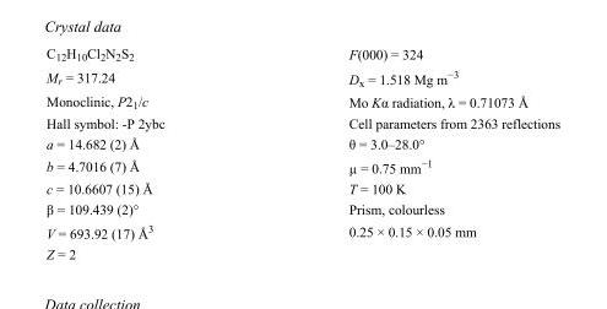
<table><tbody><tr><td>C<sub>12</sub>H<sub>10</sub>Cl<sub>2</sub>N<sub>2</sub>S<sub>2</sub></td><td>F(000) = 324</td></tr><tr><td>M<sub>r</sub> = 317.24</td><td>D<sub>x</sub> = 1.518 Mg m<sup>−3</sup></td></tr><tr><td>Monoclinic, P2<sub>1</sub>/c</td><td>Mo Kα radiation, λ = 0.71073 Å</td></tr><tr><td>Hall symbol: -P 2ybc</td><td>Cell parameters from 2363 reflections</td></tr><tr><td>a = 14.682 (2) Å</td><td>θ = 3.0–28.0°</td></tr><tr><td>b = 4.7016 (7) Å</td><td>µ = 0.75 mm<sup>−1</sup></td></tr><tr><td>c = 10.6607 (15) Å</td><td>T = 100 K</td></tr><tr><td>β = 109.439 (2)°</td><td>Prism, colourless</td></tr><tr><td>V = 693.92 (17) Å<sup>3</sup></td><td>0.25 × 0.15 × 0.05 mm</td></tr><tr><td>Z = 2</td><td></td></tr></tbody></table>